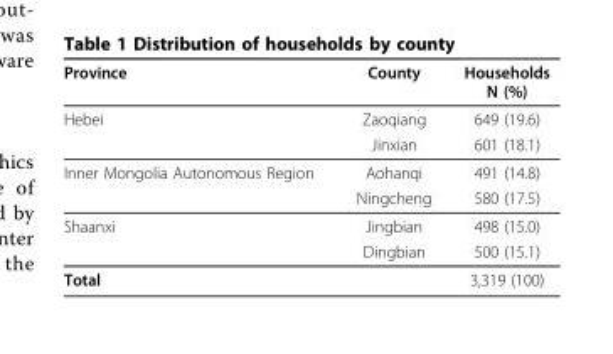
<table><thead><tr><td>Province</td><td>County</td><td>Households N (%)</td></tr></thead><tbody><tr><td rowspan="2">Hebei</td><td>Zaoqiang</td><td>649 (19.6)</td></tr><tr><td>Jinxian</td><td>601 (18.1)</td></tr><tr><td rowspan="2">Inner Mongolia Autonomous Region</td><td>Aohanqi</td><td>491 (14.8)</td></tr><tr><td>Ningcheng</td><td>580 (17.5)</td></tr><tr><td rowspan="2">Shaanxi</td><td>Jingbian</td><td>498 (15.0)</td></tr><tr><td>Dingbian</td><td>500 (15.1)</td></tr><tr><td>Total</td><td></td><td>3,319 (100)</td></tr></tbody></table>